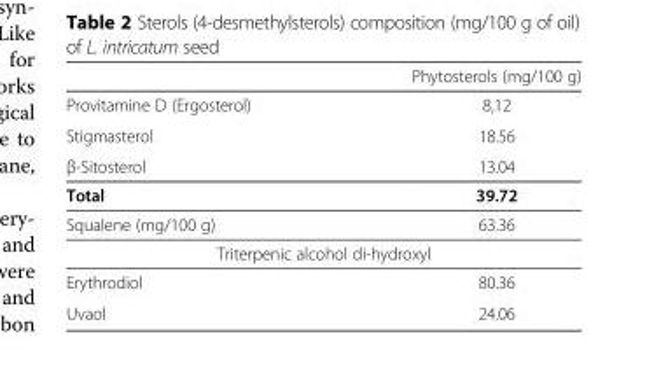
<table><thead><tr><td></td><td>Phytosterols (mg/100 g)</td></tr></thead><tbody><tr><td>Provitamine D (Ergosterol)</td><td>8,12</td></tr><tr><td>Stigmasterol</td><td>18.56</td></tr><tr><td>β-Sitosterol</td><td>13.04</td></tr><tr><td>Total</td><td>39.72</td></tr><tr><td>Squalene (mg/100 g)</td><td>63.36</td></tr><tr><td colspan="2">Triterpenic alcohol di-hydroxyl</td></tr><tr><td>Erythrodiol</td><td>80.36</td></tr><tr><td>Uvaol</td><td>24.06</td></tr></tbody></table>